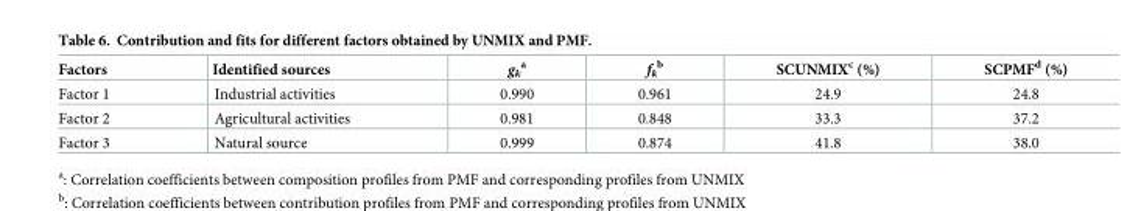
<table><thead><tr><td>Factors</td><td>Identified sources</td><td>g<sub>k</sub> <sup>a</sup></td><td>f<sub>k</sub> <sup>b</sup></td><td>SCUNMIX<sup>c</sup> (%)</td><td>SCPMF<sup>d</sup> (%)</td></tr></thead><tbody><tr><td>Factor 1</td><td>Industrial activities</td><td>0.990</td><td>0.961</td><td>24.9</td><td>24.8</td></tr><tr><td>Factor 2</td><td>Agricultural activities</td><td>0.981</td><td>0.848</td><td>33.3</td><td>37.2</td></tr><tr><td>Factor 3</td><td>Natural source</td><td>0.999</td><td>0.874</td><td>41.8</td><td>38.0</td></tr></tbody></table>